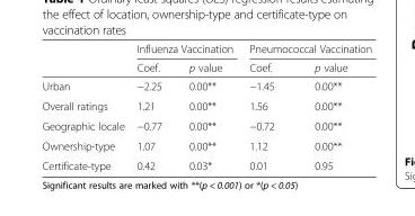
<table><thead><tr><td rowspan="2"></td><td colspan="2">Influenza Vaccination</td><td colspan="2">Pneumococcal Vaccination</td></tr><tr><td>Coef.</td><td>p value</td><td>Coef.</td><td>p value</td></tr></thead><tbody><tr><td>Urban</td><td>−2.25</td><td>0.00**</td><td>−1.45</td><td>0.00**</td></tr><tr><td>Overall ratings</td><td>1.21</td><td>0.00**</td><td>1.56</td><td>0.00**</td></tr><tr><td>Geographic locale</td><td>−0.77</td><td>0.00**</td><td>−0.72</td><td>0.00**</td></tr><tr><td>Ownership-type</td><td>1.07</td><td>0.00**</td><td>1.12</td><td>0.00**</td></tr><tr><td>Certificate-type</td><td>0.42</td><td>0.03*</td><td>0.01</td><td>0.95</td></tr></tbody></table>